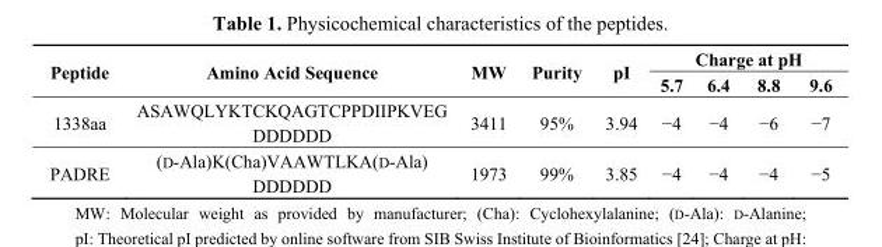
<table><thead><tr><td rowspan="2">Peptide</td><td rowspan="2">Amino Acid Sequence</td><td rowspan="2">MW</td><td rowspan="2">Purity</td><td rowspan="2">pI</td><td colspan="4">Charge at pH</td></tr><tr><td>5.7</td><td>6.4</td><td>8.8</td><td>9.6</td></tr></thead><tbody><tr><td>1338aa</td><td>ASAWQLYKTCKQAGTCPPDIIPKVEG DDDDDD</td><td>3411</td><td>95%</td><td>3.94</td><td>−4</td><td>−4</td><td>−6</td><td>−7</td></tr><tr><td>PADRE</td><td>(D-Ala)K(Cha)VAAWTLKA(D-Ala) DDDDDD</td><td>1973</td><td>99%</td><td>3.85</td><td>−4</td><td>−4</td><td>−4</td><td>−5</td></tr></tbody></table>